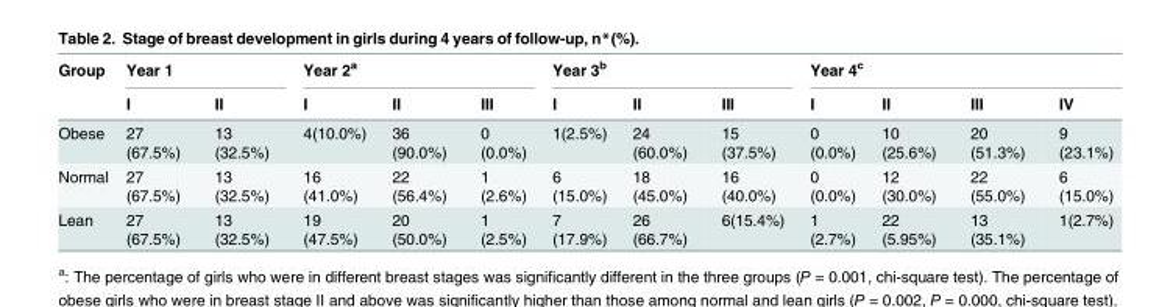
<table><thead><tr><td rowspan="2">Group</td><td colspan="2">Year 1</td><td colspan="3">Year 2<sup>a</sup></td><td colspan="3">Year 3<sup>b</sup></td><td colspan="4">Year 4<sup>c</sup></td></tr><tr><td>I</td><td>II</td><td>I</td><td>II</td><td>III</td><td>I</td><td>II</td><td>III</td><td>I</td><td>II</td><td>III</td><td>IV</td></tr></thead><tbody><tr><td>Obese</td><td>27 (67.5%)</td><td>13 (32.5%)</td><td>4(10.0%)</td><td>36 (90.0%)</td><td>0 (0.0%)</td><td>1(2.5%)</td><td>24 (60.0%)</td><td>15 (37.5%)</td><td>0 (0.0%)</td><td>10 (25.6%)</td><td>20 (51.3%)</td><td>9 (23.1%)</td></tr><tr><td>Normal</td><td>27 (67.5%)</td><td>13 (32.5%)</td><td>16 (41.0%)</td><td>22 (56.4%)</td><td>1 (2.6%)</td><td>6 (15.0%)</td><td>18 (45.0%)</td><td>16 (40.0%)</td><td>0 (0.0%)</td><td>12 (30.0%)</td><td>22 (55.0%)</td><td>6 (15.0%)</td></tr><tr><td>Lean</td><td>27 (67.5%)</td><td>13 (32.5%)</td><td>19 (47.5%)</td><td>20 (50.0%)</td><td>1 (2.5%)</td><td>7 (17.9%)</td><td>26 (66.7%)</td><td>6(15.4%)</td><td>1 (2.7%)</td><td>22 (5.95%)</td><td>13 (35.1%)</td><td>1(2.7%)</td></tr></tbody></table>